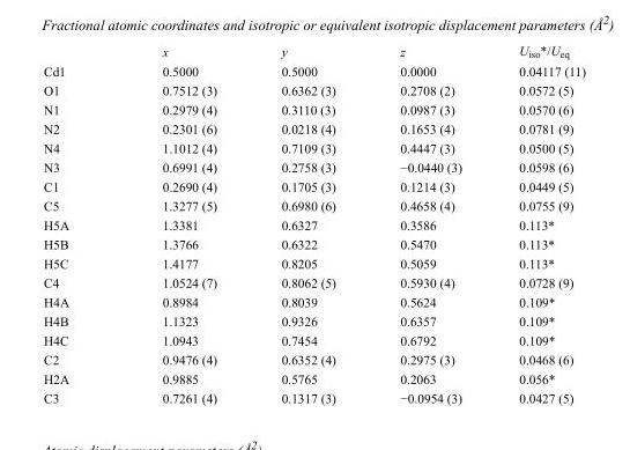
<table><thead><tr><td></td><td>x</td><td>y</td><td>z</td><td>U<sub>iso</sub>*/U<sub>eq</sub></td></tr></thead><tbody><tr><td>Cd1</td><td>0.5000</td><td>0.5000</td><td>0.0000</td><td>0.04117 (11)</td></tr><tr><td>O1</td><td>0.7512 (3)</td><td>0.6362 (3)</td><td>0.2708 (2)</td><td>0.0572 (5)</td></tr><tr><td>N1</td><td>0.2979 (4)</td><td>0.3110 (3)</td><td>0.0987 (3)</td><td>0.0570 (6)</td></tr><tr><td>N2</td><td>0.2301 (6)</td><td>0.0218 (4)</td><td>0.1653 (4)</td><td>0.0781 (9)</td></tr><tr><td>N4</td><td>1.1012 (4)</td><td>0.7109 (3)</td><td>0.4447 (3)</td><td>0.0500 (5)</td></tr><tr><td>N3</td><td>0.6991 (4)</td><td>0.2758 (3)</td><td>−0.0440 (3)</td><td>0.0598 (6)</td></tr><tr><td>C1</td><td>0.2690 (4)</td><td>0.1705 (3)</td><td>0.1214 (3)</td><td>0.0449 (5)</td></tr><tr><td>C5</td><td>1.3277 (5)</td><td>0.6980 (6)</td><td>0.4658 (4)</td><td>0.0755 (9)</td></tr><tr><td>H5A</td><td>1.3381</td><td>0.6327</td><td>0.3586</td><td>0.113*</td></tr><tr><td>H5B</td><td>1.3766</td><td>0.6322</td><td>0.5470</td><td>0.113*</td></tr><tr><td>H5C</td><td>1.4177</td><td>0.8205</td><td>0.5059</td><td>0.113*</td></tr><tr><td>C4</td><td>1.0524 (7)</td><td>0.8062 (5)</td><td>0.5930 (4)</td><td>0.0728 (9)</td></tr><tr><td>H4A</td><td>0.8984</td><td>0.8039</td><td>0.5624</td><td>0.109*</td></tr><tr><td>H4B</td><td>1.1323</td><td>0.9326</td><td>0.6357</td><td>0.109*</td></tr><tr><td>H4C</td><td>1.0943</td><td>0.7454</td><td>0.6792</td><td>0.109*</td></tr><tr><td>C2</td><td>0.9476 (4)</td><td>0.6352 (4)</td><td>0.2975 (3)</td><td>0.0468 (6)</td></tr><tr><td>H2A</td><td>0.9885</td><td>0.5765</td><td>0.2063</td><td>0.056*</td></tr><tr><td>C3</td><td>0.7261 (4)</td><td>0.1317 (3)</td><td>−0.0954 (3)</td><td>0.0427 (5)</td></tr></tbody></table>